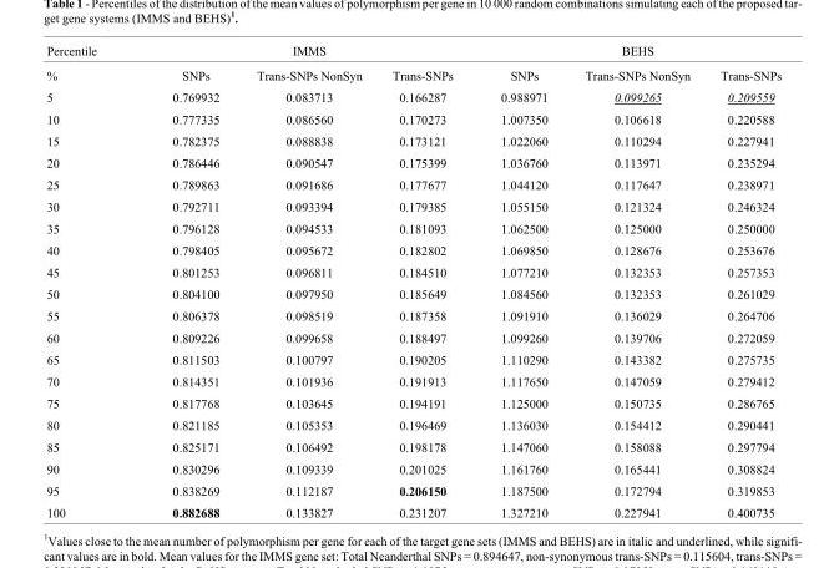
<table><thead><tr><td>Percentile</td><td></td><td>IMMS</td><td></td><td></td><td>BEHS</td><td></td></tr></thead><tbody><tr><td>%</td><td>SNPs</td><td>Trans-SNPs NonSyn</td><td>Trans-SNPs</td><td>SNPs</td><td>Trans-SNPs NonSyn</td><td>Trans-SNPs</td></tr><tr><td>5</td><td>0.769932</td><td>0.083713</td><td>0.166287</td><td>0.988971</td><td>0.099265</td><td>0.209559</td></tr><tr><td>10</td><td>0.777335</td><td>0.086560</td><td>0.170273</td><td>1.007350</td><td>0.106618</td><td>0.220588</td></tr><tr><td>15</td><td>0.782375</td><td>0.088838</td><td>0.173121</td><td>1.022060</td><td>0.110294</td><td>0.227941</td></tr><tr><td>20</td><td>0.786446</td><td>0.090547</td><td>0.175399</td><td>1.036760</td><td>0.113971</td><td>0.235294</td></tr><tr><td>25</td><td>0.789863</td><td>0.091686</td><td>0.177677</td><td>1.044120</td><td>0.117647</td><td>0.238971</td></tr><tr><td>30</td><td>0.792711</td><td>0.093394</td><td>0.179385</td><td>1.055150</td><td>0.121324</td><td>0.246324</td></tr><tr><td>35</td><td>0.796128</td><td>0.094533</td><td>0.181093</td><td>1.062500</td><td>0.125000</td><td>0.250000</td></tr><tr><td>40</td><td>0.798405</td><td>0.095672</td><td>0.182802</td><td>1.069850</td><td>0.128676</td><td>0.253676</td></tr><tr><td>45</td><td>0.801253</td><td>0.096811</td><td>0.184510</td><td>1.077210</td><td>0.132353</td><td>0.257353</td></tr><tr><td>50</td><td>0.804100</td><td>0.097950</td><td>0.185649</td><td>1.084560</td><td>0.132353</td><td>0.261029</td></tr><tr><td>55</td><td>0.806378</td><td>0.098519</td><td>0.187358</td><td>1.091910</td><td>0.136029</td><td>0.264706</td></tr><tr><td>60</td><td>0.809226</td><td>0.099658</td><td>0.188497</td><td>1.099260</td><td>0.139706</td><td>0.272059</td></tr><tr><td>65</td><td>0.811503</td><td>0.100797</td><td>0.190205</td><td>1.110290</td><td>0.143382</td><td>0.275735</td></tr><tr><td>70</td><td>0.814351</td><td>0.101936</td><td>0.191913</td><td>1.117650</td><td>0.147059</td><td>0.279412</td></tr><tr><td>75</td><td>0.817768</td><td>0.103645</td><td>0.194191</td><td>1.125000</td><td>0.150735</td><td>0.286765</td></tr><tr><td>80</td><td>0.821185</td><td>0.105353</td><td>0.196469</td><td>1.136030</td><td>0.154412</td><td>0.290441</td></tr><tr><td>85</td><td>0.825171</td><td>0.106492</td><td>0.198178</td><td>1.147060</td><td>0.158088</td><td>0.297794</td></tr><tr><td>90</td><td>0.830296</td><td>0.109339</td><td>0.201025</td><td>1.161760</td><td>0.165441</td><td>0.308824</td></tr><tr><td>95</td><td>0.838269</td><td>0.112187</td><td>0.206150</td><td>1.187500</td><td>0.172794</td><td>0.319853</td></tr><tr><td>100</td><td>0.882688</td><td>0.133827</td><td>0.231207</td><td>1.327210</td><td>0.227941</td><td>0.400735</td></tr></tbody></table>